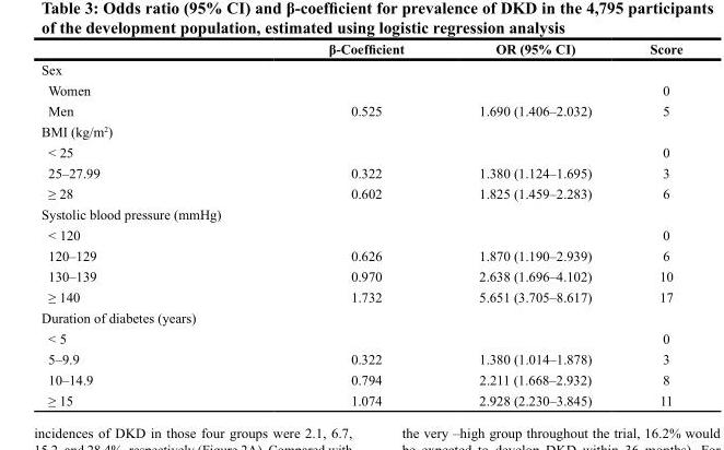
<table><thead><tr><td></td><td>β-Coefficient</td><td>OR (95% CI)</td><td>Score</td></tr></thead><tbody><tr><td colspan="4">Sex</td></tr><tr><td>Women</td><td></td><td></td><td>0</td></tr><tr><td>Men</td><td>0.525</td><td>1.690 (1.406–2.032)</td><td>5</td></tr><tr><td colspan="4">BMI (kg/m<sup>2</sup>)</td></tr><tr><td>&lt; 25</td><td></td><td></td><td>0</td></tr><tr><td>25–27.99</td><td>0.322</td><td>1.380 (1.124–1.695)</td><td>3</td></tr><tr><td>≥ 28</td><td>0.602</td><td>1.825 (1.459–2.283)</td><td>6</td></tr><tr><td colspan="4">Systolic blood pressure (mmHg)</td></tr><tr><td>&lt; 120</td><td></td><td></td><td>0</td></tr><tr><td>120–129</td><td>0.626</td><td>1.870 (1.190–2.939)</td><td>6</td></tr><tr><td>130–139</td><td>0.970</td><td>2.638 (1.696–4.102)</td><td>10</td></tr><tr><td>≥ 140</td><td>1.732</td><td>5.651 (3.705–8.617)</td><td>17</td></tr><tr><td colspan="4">Duration of diabetes (years)</td></tr><tr><td>&lt; 5</td><td></td><td></td><td>0</td></tr><tr><td>5–9.9</td><td>0.322</td><td>1.380 (1.014–1.878)</td><td>3</td></tr><tr><td>10–14.9</td><td>0.794</td><td>2.211 (1.668–2.932)</td><td>8</td></tr><tr><td>≥ 15</td><td>1.074</td><td>2.928 (2.230–3.845)</td><td>11</td></tr></tbody></table>